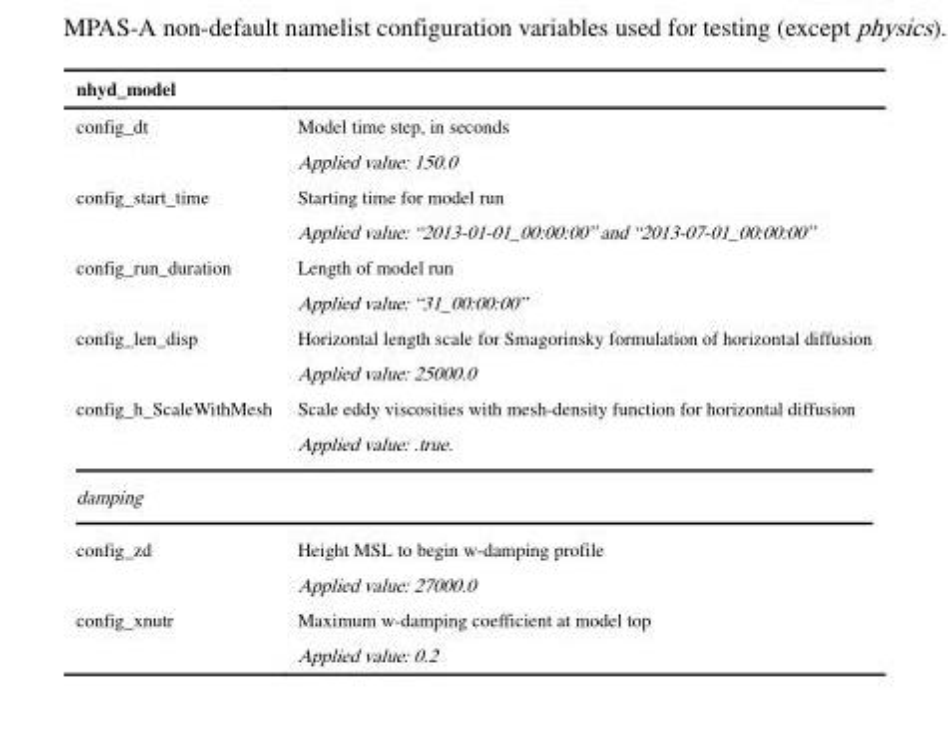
<table><thead><tr><td>nhyd_model</td><td></td></tr></thead><tbody><tr><td rowspan="2">config_dt</td><td>Model time step, in seconds</td></tr><tr><td>Applied value: 150.0</td></tr><tr><td rowspan="2">config_start_time</td><td>Starting time for model run</td></tr><tr><td>Applied value: “2013-01-01_00:00:00” and “2013-07-01_00:00:00”</td></tr><tr><td rowspan="2">config_run_duration</td><td>Length of model run</td></tr><tr><td>Applied value: “31_00:00:00”</td></tr><tr><td rowspan="2">config_len_disp</td><td>Horizontal length scale for Smagorinsky formulation of horizontal diffusion</td></tr><tr><td>Applied value: 25000.0</td></tr><tr><td rowspan="2">config_h_ScaleWithMesh</td><td>Scale eddy viscosities with mesh-density function for horizontal diffusion</td></tr><tr><td>Applied value: .true.</td></tr><tr><td colspan="2">damping</td></tr><tr><td rowspan="2">config_zd</td><td>Height MSL to begin w-damping profile</td></tr><tr><td>Applied value: 27000.0</td></tr><tr><td rowspan="2">config_xnutr</td><td>Maximum w-damping coefficient at model top</td></tr><tr><td>Applied value: 0.2</td></tr></tbody></table>